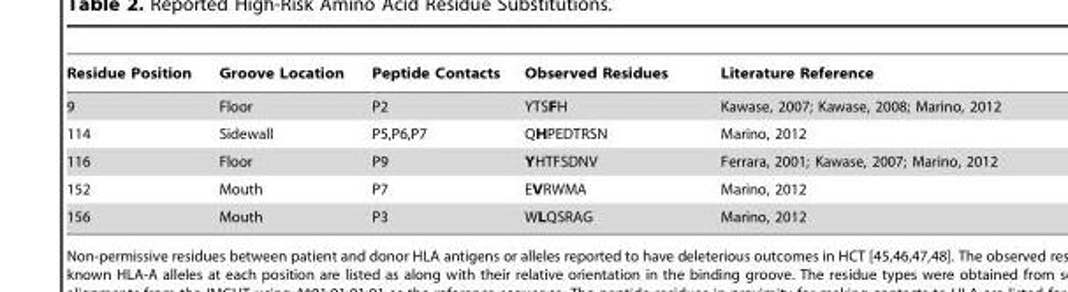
<table><thead><tr><td>Residue Position</td><td>Groove Location</td><td>Peptide Contacts</td><td>Observed Residues</td><td>Literature Reference</td></tr></thead><tbody><tr><td>9</td><td>Floor</td><td>P2</td><td>YTSFH</td><td>Kawase, 2007; Kawase, 2008; Marino, 2012</td></tr><tr><td>114</td><td>Sidewall</td><td>P5,P6,P7</td><td>QHPEDTRSN</td><td>Marino, 2012</td></tr><tr><td>116</td><td>Floor</td><td>P9</td><td>YHTFSDNV</td><td>Ferrara, 2001; Kawase, 2007; Marino, 2012</td></tr><tr><td>152</td><td>Mouth</td><td>P7</td><td>EVRWMA</td><td>Marino, 2012</td></tr><tr><td>156</td><td>Mouth</td><td>P3</td><td>WLQSRAG</td><td>Marino, 2012</td></tr></tbody></table>